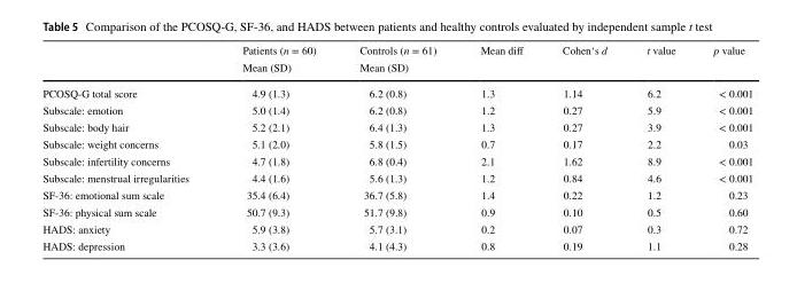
<table><thead><tr><td rowspan="2"></td><td rowspan="2">Patients (n = 60) Mean (SD)</td><td rowspan="2">Controls (n = 61) Mean (SD)</td><td rowspan="2">Mean diff</td><td rowspan="2">Cohen‘s d</td><td rowspan="2">t value</td><td rowspan="2">p value</td></tr><tr></tr></thead><tbody><tr><td>PCOSQ-G total score</td><td>4.9 (1.3)</td><td>6.2 (0.8)</td><td>1.3</td><td>1.14</td><td>6.2</td><td>&lt; 0.001</td></tr><tr><td>Subscale: emotion</td><td>5.0 (1.4)</td><td>6.2 (0.8)</td><td>1.2</td><td>0.27</td><td>5.9</td><td>&lt; 0.001</td></tr><tr><td>Subscale: body hair</td><td>5.2 (2.1)</td><td>6.4 (1.3)</td><td>1.3</td><td>0.27</td><td>3.9</td><td>&lt; 0.001</td></tr><tr><td>Subscale: weight concerns</td><td>5.1 (2.0)</td><td>5.8 (1.5)</td><td>0.7</td><td>0.17</td><td>2.2</td><td>0.03</td></tr><tr><td>Subscale: infertility concerns</td><td>4.7 (1.8)</td><td>6.8 (0.4)</td><td>2.1</td><td>1.62</td><td>8.9</td><td>&lt; 0.001</td></tr><tr><td>Subscale: menstrual irregularities</td><td>4.4 (1.6)</td><td>5.6 (1.3)</td><td>1.2</td><td>0.84</td><td>4.6</td><td>&lt; 0.001</td></tr><tr><td>SF-36: emotional sum scale</td><td>35.4 (6.4)</td><td>36.7 (5.8)</td><td>1.4</td><td>0.22</td><td>1.2</td><td>0.23</td></tr><tr><td>SF-36: physical sum scale</td><td>50.7 (9.3)</td><td>51.7 (9.8)</td><td>0.9</td><td>0.10</td><td>0.5</td><td>0.60</td></tr><tr><td>HADS: anxiety</td><td>5.9 (3.8)</td><td>5.7 (3.1)</td><td>0.2</td><td>0.07</td><td>0.3</td><td>0.72</td></tr><tr><td>HADS: depression</td><td>3.3 (3.6)</td><td>4.1 (4.3)</td><td>0.8</td><td>0.19</td><td>1.1</td><td>0.28</td></tr></tbody></table>